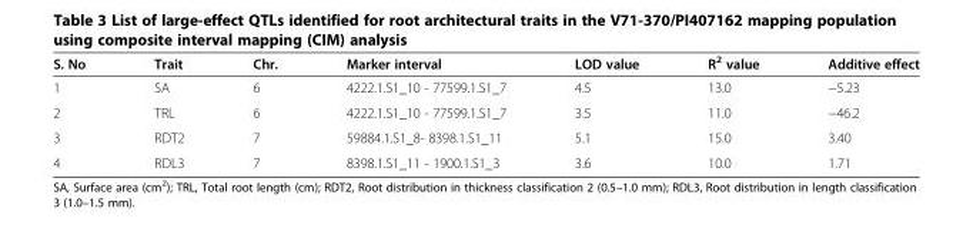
<table><thead><tr><td>S. No</td><td>Trait</td><td>Chr.</td><td>Marker interval</td><td>LOD value</td><td>R<sup>2</sup> value</td><td>Additive effect</td></tr></thead><tbody><tr><td>1</td><td>SA</td><td>6</td><td>4222.1.S1_10 - 77599.1.S1_7</td><td>4.5</td><td>13.0</td><td>−5.23</td></tr><tr><td>2</td><td>TRL</td><td>6</td><td>4222.1.S1_10 - 77599.1.S1_7</td><td>3.5</td><td>11.0</td><td>−46.2</td></tr><tr><td>3</td><td>RDT2</td><td>7</td><td>59884.1.S1_8- 8398.1.S1_11</td><td>5.1</td><td>15.0</td><td>3.40</td></tr><tr><td>4</td><td>RDL3</td><td>7</td><td>8398.1.S1_11 - 1900.1.S1_3</td><td>3.6</td><td>10.0</td><td>1.71</td></tr></tbody></table>